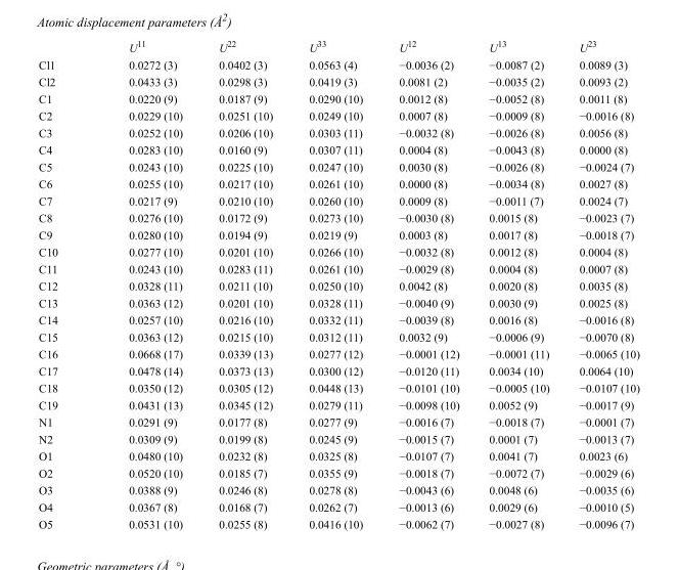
<table><thead><tr><td></td><td>U<sup>11</sup></td><td>U<sup>22</sup></td><td>U<sup>33</sup></td><td>U<sup>12</sup></td><td>U<sup>13</sup></td><td>U<sup>23</sup></td></tr></thead><tbody><tr><td>Cl1</td><td>0.0272 (3)</td><td>0.0402 (3)</td><td>0.0563 (4)</td><td>−0.0036 (2)</td><td>−0.0087 (2)</td><td>0.0089 (3)</td></tr><tr><td>Cl2</td><td>0.0433 (3)</td><td>0.0298 (3)</td><td>0.0419 (3)</td><td>0.0081 (2)</td><td>−0.0035 (2)</td><td>0.0093 (2)</td></tr><tr><td>C1</td><td>0.0220 (9)</td><td>0.0187 (9)</td><td>0.0290 (10)</td><td>0.0012 (8)</td><td>−0.0052 (8)</td><td>0.0011 (8)</td></tr><tr><td>C2</td><td>0.0229 (10)</td><td>0.0251 (10)</td><td>0.0249 (10)</td><td>0.0007 (8)</td><td>−0.0009 (8)</td><td>−0.0016 (8)</td></tr><tr><td>C3</td><td>0.0252 (10)</td><td>0.0206 (10)</td><td>0.0303 (11)</td><td>−0.0032 (8)</td><td>−0.0026 (8)</td><td>0.0056 (8)</td></tr><tr><td>C4</td><td>0.0283 (10)</td><td>0.0160 (9)</td><td>0.0307 (11)</td><td>0.0004 (8)</td><td>−0.0043 (8)</td><td>0.0000 (8)</td></tr><tr><td>C5</td><td>0.0243 (10)</td><td>0.0225 (10)</td><td>0.0247 (10)</td><td>0.0030 (8)</td><td>−0.0026 (8)</td><td>−0.0024 (7)</td></tr><tr><td>C6</td><td>0.0255 (10)</td><td>0.0217 (10)</td><td>0.0261 (10)</td><td>0.0000 (8)</td><td>−0.0034 (8)</td><td>0.0027 (8)</td></tr><tr><td>C7</td><td>0.0217 (9)</td><td>0.0210 (10)</td><td>0.0260 (10)</td><td>0.0009 (8)</td><td>−0.0011 (7)</td><td>0.0024 (7)</td></tr><tr><td>C8</td><td>0.0276 (10)</td><td>0.0172 (9)</td><td>0.0273 (10)</td><td>−0.0030 (8)</td><td>0.0015 (8)</td><td>−0.0023 (7)</td></tr><tr><td>C9</td><td>0.0280 (10)</td><td>0.0194 (9)</td><td>0.0219 (9)</td><td>0.0003 (8)</td><td>0.0017 (8)</td><td>−0.0018 (7)</td></tr><tr><td>C10</td><td>0.0277 (10)</td><td>0.0201 (10)</td><td>0.0266 (10)</td><td>−0.0032 (8)</td><td>0.0012 (8)</td><td>0.0004 (8)</td></tr><tr><td>C11</td><td>0.0243 (10)</td><td>0.0283 (11)</td><td>0.0261 (10)</td><td>−0.0029 (8)</td><td>0.0004 (8)</td><td>0.0007 (8)</td></tr><tr><td>C12</td><td>0.0328 (11)</td><td>0.0211 (10)</td><td>0.0250 (10)</td><td>0.0042 (8)</td><td>0.0020 (8)</td><td>0.0035 (8)</td></tr><tr><td>C13</td><td>0.0363 (12)</td><td>0.0201 (10)</td><td>0.0328 (11)</td><td>−0.0040 (9)</td><td>0.0030 (9)</td><td>0.0025 (8)</td></tr><tr><td>C14</td><td>0.0257 (10)</td><td>0.0216 (10)</td><td>0.0332 (11)</td><td>−0.0039 (8)</td><td>0.0016 (8)</td><td>−0.0016 (8)</td></tr><tr><td>C15</td><td>0.0363 (12)</td><td>0.0215 (10)</td><td>0.0312 (11)</td><td>0.0032 (9)</td><td>−0.0006 (9)</td><td>−0.0070 (8)</td></tr><tr><td>C16</td><td>0.0668 (17)</td><td>0.0339 (13)</td><td>0.0277 (12)</td><td>−0.0001 (12)</td><td>−0.0001 (11)</td><td>−0.0065 (10)</td></tr><tr><td>C17</td><td>0.0478 (14)</td><td>0.0373 (13)</td><td>0.0300 (12)</td><td>−0.0120 (11)</td><td>0.0034 (10)</td><td>0.0064 (10)</td></tr><tr><td>C18</td><td>0.0350 (12)</td><td>0.0305 (12)</td><td>0.0448 (13)</td><td>−0.0101 (10)</td><td>−0.0005 (10)</td><td>−0.0107 (10)</td></tr><tr><td>C19</td><td>0.0431 (13)</td><td>0.0345 (12)</td><td>0.0279 (11)</td><td>−0.0098 (10)</td><td>0.0052 (9)</td><td>−0.0017 (9)</td></tr><tr><td>N1</td><td>0.0291 (9)</td><td>0.0177 (8)</td><td>0.0277 (9)</td><td>−0.0016 (7)</td><td>−0.0018 (7)</td><td>−0.0001 (7)</td></tr><tr><td>N2</td><td>0.0309 (9)</td><td>0.0199 (8)</td><td>0.0245 (9)</td><td>−0.0015 (7)</td><td>0.0001 (7)</td><td>−0.0013 (7)</td></tr><tr><td>O1</td><td>0.0480 (10)</td><td>0.0232 (8)</td><td>0.0325 (8)</td><td>−0.0107 (7)</td><td>0.0041 (7)</td><td>0.0023 (6)</td></tr><tr><td>O2</td><td>0.0520 (10)</td><td>0.0185 (7)</td><td>0.0355 (9)</td><td>−0.0018 (7)</td><td>−0.0072 (7)</td><td>−0.0029 (6)</td></tr><tr><td>O3</td><td>0.0388 (9)</td><td>0.0246 (8)</td><td>0.0278 (8)</td><td>−0.0043 (6)</td><td>0.0048 (6)</td><td>−0.0035 (6)</td></tr><tr><td>O4</td><td>0.0367 (8)</td><td>0.0168 (7)</td><td>0.0262 (7)</td><td>−0.0013 (6)</td><td>0.0029 (6)</td><td>−0.0010 (5)</td></tr><tr><td>O5</td><td>0.0531 (10)</td><td>0.0255 (8)</td><td>0.0416 (10)</td><td>−0.0062 (7)</td><td>−0.0027 (8)</td><td>−0.0096 (7)</td></tr></tbody></table>